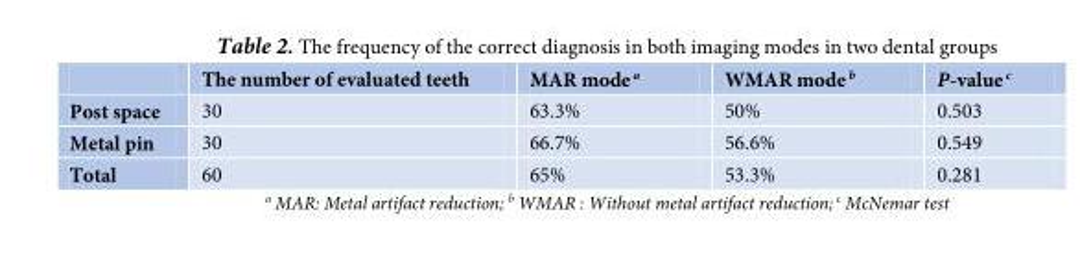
<table><thead><tr><td>P-value <sup>c</sup></td><td>WMAR mode <sup>b</sup></td><td>MAR mode <sup>a</sup></td><td>The number of evaluated teeth</td><td></td></tr></thead><tbody><tr><td>0.503</td><td>50%</td><td>63.3%</td><td>30</td><td>Post space</td></tr><tr><td>0.549</td><td>56.6%</td><td>66.7%</td><td>30</td><td>Metal pin</td></tr><tr><td>0.281</td><td>53.3%</td><td>65%</td><td>60</td><td>Total</td></tr></tbody></table>